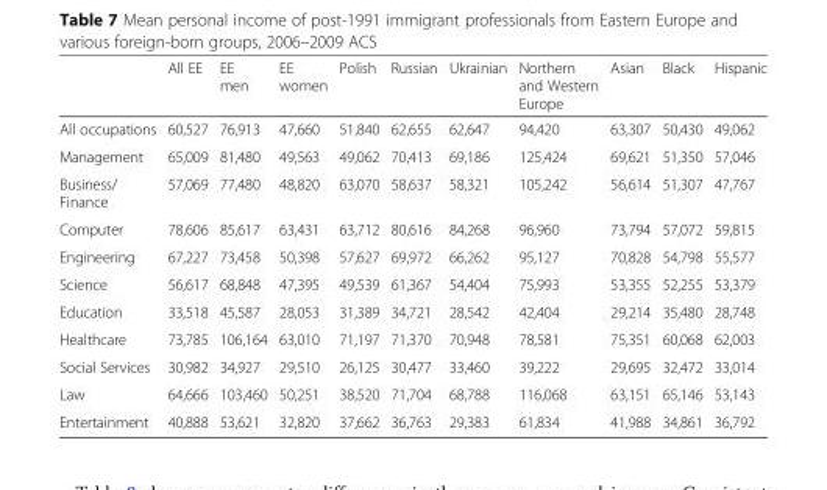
<table><thead><tr><td></td><td>All EE</td><td>EE men</td><td>EE women</td><td>Polish</td><td>Russian</td><td>Ukrainian</td><td>Northern and Western Europe</td><td>Asian</td><td>Black</td><td>Hispanic</td></tr></thead><tbody><tr><td>All occupations</td><td>60,527</td><td>76,913</td><td>47,660</td><td>51,840</td><td>62,655</td><td>62,647</td><td>94,420</td><td>63,307</td><td>50,430</td><td>49,062</td></tr><tr><td>Management</td><td>65,009</td><td>81,480</td><td>49,563</td><td>49,062</td><td>70,413</td><td>69,186</td><td>125,424</td><td>69,621</td><td>51,350</td><td>57,046</td></tr><tr><td>Business/ Finance</td><td>57,069</td><td>77,480</td><td>48,820</td><td>63,070</td><td>58,637</td><td>58,321</td><td>105,242</td><td>56,614</td><td>51,307</td><td>47,767</td></tr><tr><td>Computer</td><td>78,606</td><td>85,617</td><td>63,431</td><td>63,712</td><td>80,616</td><td>84,268</td><td>96,960</td><td>73,794</td><td>57,072</td><td>59,815</td></tr><tr><td>Engineering</td><td>67,227</td><td>73,458</td><td>50,398</td><td>57,627</td><td>69,972</td><td>66,262</td><td>95,127</td><td>70,828</td><td>54,798</td><td>55,577</td></tr><tr><td>Science</td><td>56,617</td><td>68,848</td><td>47,395</td><td>49,539</td><td>61,367</td><td>54,404</td><td>75,993</td><td>53,355</td><td>52,255</td><td>53,379</td></tr><tr><td>Education</td><td>33,518</td><td>45,587</td><td>28,053</td><td>31,389</td><td>34,721</td><td>28,542</td><td>42,404</td><td>29,214</td><td>35,480</td><td>28,748</td></tr><tr><td>Healthcare</td><td>73,785</td><td>106,164</td><td>63,010</td><td>71,197</td><td>71,370</td><td>70,948</td><td>78,581</td><td>75,351</td><td>60,068</td><td>62,003</td></tr><tr><td>Social Services</td><td>30,982</td><td>34,927</td><td>29,510</td><td>26,125</td><td>30,477</td><td>33,460</td><td>39,222</td><td>29,695</td><td>32,472</td><td>33,014</td></tr><tr><td>Law</td><td>64,666</td><td>103,460</td><td>50,251</td><td>38,520</td><td>71,704</td><td>68,788</td><td>116,068</td><td>63,151</td><td>65,146</td><td>53,143</td></tr><tr><td>Entertainment</td><td>40,888</td><td>53,621</td><td>32,820</td><td>37,662</td><td>36,763</td><td>29,383</td><td>61,834</td><td>41,988</td><td>34,861</td><td>36,792</td></tr></tbody></table>